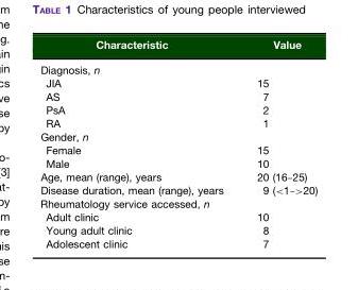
<table><thead><tr><td>Characteristic</td><td>Value</td></tr></thead><tbody><tr><td colspan="2">Diagnosis, n</td></tr><tr><td>JIA</td><td>15</td></tr><tr><td>AS</td><td>7</td></tr><tr><td>PsA</td><td>2</td></tr><tr><td>RA</td><td>1</td></tr><tr><td colspan="2">Gender, n</td></tr><tr><td>Female</td><td>15</td></tr><tr><td>Male</td><td>10</td></tr><tr><td>Age, mean (range), years</td><td>20 (16–25)</td></tr><tr><td>Disease duration, mean (range), years</td><td>9 (&lt;1–&gt;20)</td></tr><tr><td colspan="2">Rheumatology service accessed, n</td></tr><tr><td>Adult clinic</td><td>10</td></tr><tr><td>Young adult clinic</td><td>8</td></tr><tr><td>Adolescent clinic</td><td>7</td></tr></tbody></table>